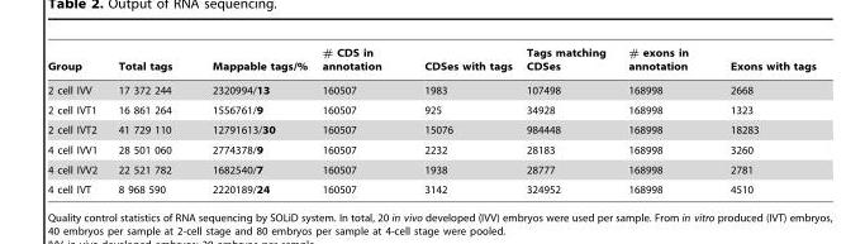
<table><thead><tr><td>Group</td><td>Total tags</td><td>Mappable tags/%</td><td># CDS in annotation</td><td>CDSes with tags</td><td>Tags matching CDSes</td><td># exons in annotation</td><td>Exons with tags</td></tr></thead><tbody><tr><td>2 cell IVV</td><td>17 372 244</td><td>2320994/13</td><td>160507</td><td>1983</td><td>107498</td><td>168998</td><td>2668</td></tr><tr><td>2 cell IVT1</td><td>16 861 264</td><td>1556761/9</td><td>160507</td><td>925</td><td>34928</td><td>168998</td><td>1323</td></tr><tr><td>2 cell IVT2</td><td>41 729 110</td><td>12791613/30</td><td>160507</td><td>15076</td><td>984448</td><td>168998</td><td>18283</td></tr><tr><td>4 cell IVV1</td><td>28 501 060</td><td>2774378/9</td><td>160507</td><td>2232</td><td>28183</td><td>168998</td><td>3260</td></tr><tr><td>4 cell IVV2</td><td>22 521 782</td><td>1682540/7</td><td>160507</td><td>1938</td><td>28777</td><td>168998</td><td>2781</td></tr><tr><td>4 cell IVT</td><td>8 968 590</td><td>2220189/24</td><td>160507</td><td>3142</td><td>324952</td><td>168998</td><td>4510</td></tr></tbody></table>